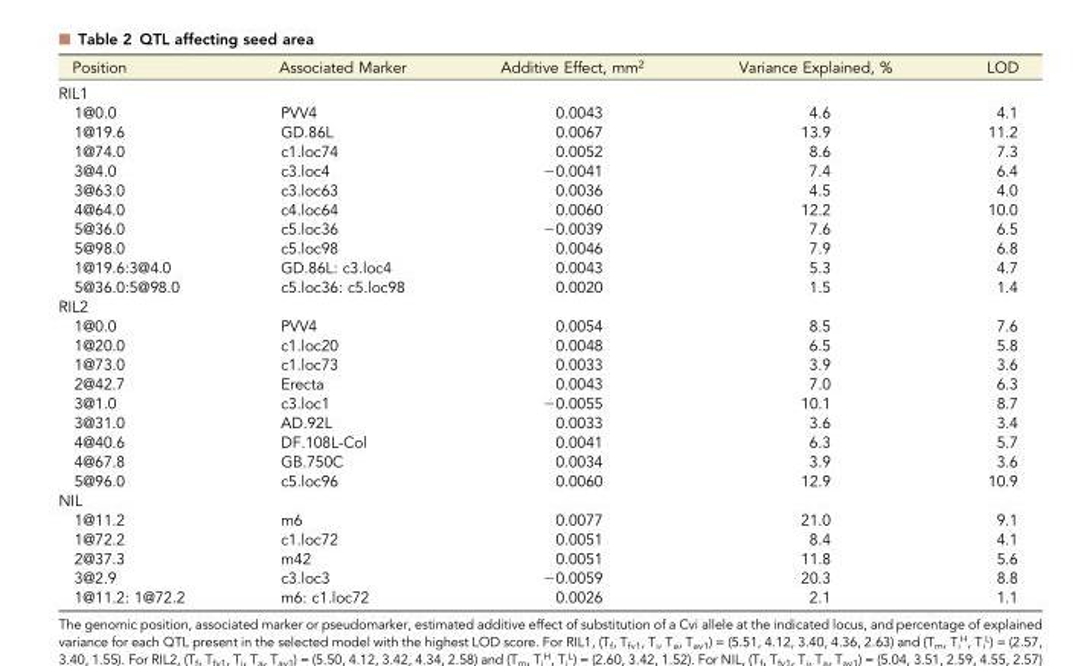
<table><thead><tr><td>Position</td><td>Associated Marker</td><td>Additive Effect, mm<sup>2</sup></td><td>Variance Explained, %</td><td>LOD</td></tr></thead><tbody><tr><td colspan="5">RIL1</td></tr><tr><td>1@0.0</td><td>PVV4</td><td>0.0043</td><td>4.6</td><td>4.1</td></tr><tr><td>1@19.6</td><td>GD.86L</td><td>0.0067</td><td>13.9</td><td>11.2</td></tr><tr><td>1@74.0</td><td>c1.loc74</td><td>0.0052</td><td>8.6</td><td>7.3</td></tr><tr><td>3@4.0</td><td>c3.loc4</td><td>−0.0041</td><td>7.4</td><td>6.4</td></tr><tr><td>3@63.0</td><td>c3.loc63</td><td>0.0036</td><td>4.5</td><td>4.0</td></tr><tr><td>4@64.0</td><td>c4.loc64</td><td>0.0060</td><td>12.2</td><td>10.0</td></tr><tr><td>5@36.0</td><td>c5.loc36</td><td>−0.0039</td><td>7.6</td><td>6.5</td></tr><tr><td>5@98.0</td><td>c5.loc98</td><td>0.0046</td><td>7.9</td><td>6.8</td></tr><tr><td>1@19.6:3@4.0</td><td>GD.86L: c3.loc4</td><td>0.0043</td><td>5.3</td><td>4.7</td></tr><tr><td>5@36.0:5@98.0</td><td>c5.loc36: c5.loc98</td><td>0.0020</td><td>1.5</td><td>1.4</td></tr><tr><td colspan="5">RIL2</td></tr><tr><td>1@0.0</td><td>PVV4</td><td>0.0054</td><td>8.5</td><td>7.6</td></tr><tr><td>1@20.0</td><td>c1.loc20</td><td>0.0048</td><td>6.5</td><td>5.8</td></tr><tr><td>1@73.0</td><td>c1.loc73</td><td>0.0033</td><td>3.9</td><td>3.6</td></tr><tr><td>2@42.7</td><td>Erecta</td><td>0.0043</td><td>7.0</td><td>6.3</td></tr><tr><td>3@1.0</td><td>c3.loc1</td><td>−0.0055</td><td>10.1</td><td>8.7</td></tr><tr><td>3@31.0</td><td>AD.92L</td><td>0.0033</td><td>3.6</td><td>3.4</td></tr><tr><td>4@40.6</td><td>DF.108L-Col</td><td>0.0041</td><td>6.3</td><td>5.7</td></tr><tr><td>4@67.8</td><td>GB.750C</td><td>0.0034</td><td>3.9</td><td>3.6</td></tr><tr><td>5@96.0</td><td>c5.loc96</td><td>0.0060</td><td>12.9</td><td>10.9</td></tr><tr><td colspan="5">NIL</td></tr><tr><td>1@11.2</td><td>m6</td><td>0.0077</td><td>21.0</td><td>9.1</td></tr><tr><td>1@72.2</td><td>c1.loc72</td><td>0.0051</td><td>8.4</td><td>4.1</td></tr><tr><td>2@37.3</td><td>m42</td><td>0.0051</td><td>11.8</td><td>5.6</td></tr><tr><td>3@2.9</td><td>c3.loc3</td><td>−0.0059</td><td>20.3</td><td>8.8</td></tr><tr><td>1@11.2: 1@72.2</td><td>m6: c1.loc72</td><td>0.0026</td><td>2.1</td><td>1.1</td></tr></tbody></table>